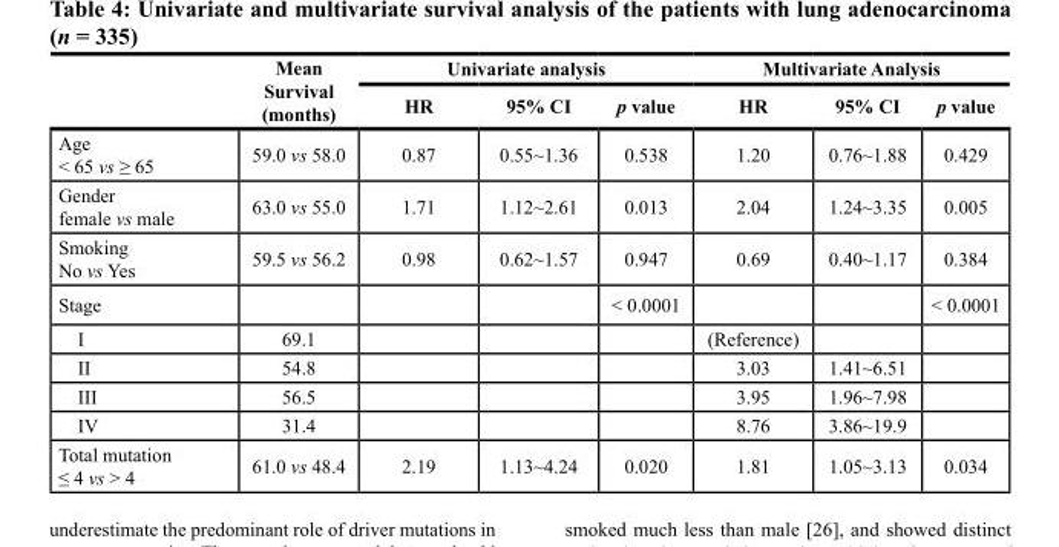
<table><thead><tr><td rowspan="2"></td><td rowspan="2">Mean Survival (months)</td><td colspan="3">Univariate analysis</td><td colspan="3">Multivariate Analysis</td></tr><tr><td>HR</td><td>95% CI</td><td>p value</td><td>HR</td><td>95% CI</td><td>p value</td></tr></thead><tbody><tr><td>Age &lt; 65 vs ≥ 65</td><td>59.0 vs 58.0</td><td>0.87</td><td>0.55~1.36</td><td>0.538</td><td>1.20</td><td>0.76~1.88</td><td>0.429</td></tr><tr><td>Gender female vs male</td><td>63.0 vs 55.0</td><td>1.71</td><td>1.12~2.61</td><td>0.013</td><td>2.04</td><td>1.24~3.35</td><td>0.005</td></tr><tr><td>Smoking No vs Yes</td><td>59.5 vs 56.2</td><td>0.98</td><td>0.62~1.57</td><td>0.947</td><td>0.69</td><td>0.40~1.17</td><td>0.384</td></tr><tr><td>Stage</td><td></td><td></td><td></td><td>&lt; 0.0001</td><td></td><td></td><td>&lt; 0.0001</td></tr><tr><td>I</td><td>69.1</td><td></td><td></td><td></td><td>(Reference)</td><td></td><td></td></tr><tr><td>II</td><td>54.8</td><td></td><td></td><td></td><td>3.03</td><td>1.41~6.51</td><td></td></tr><tr><td>III</td><td>56.5</td><td></td><td></td><td></td><td>3.95</td><td>1.96~7.98</td><td></td></tr><tr><td>IV</td><td>31.4</td><td></td><td></td><td></td><td>8.76</td><td>3.86~19.9</td><td></td></tr><tr><td>Total mutation ≤ 4 vs &gt; 4</td><td>61.0 vs 48.4</td><td>2.19</td><td>1.13~4.24</td><td>0.020</td><td>1.81</td><td>1.05~3.13</td><td>0.034</td></tr></tbody></table>